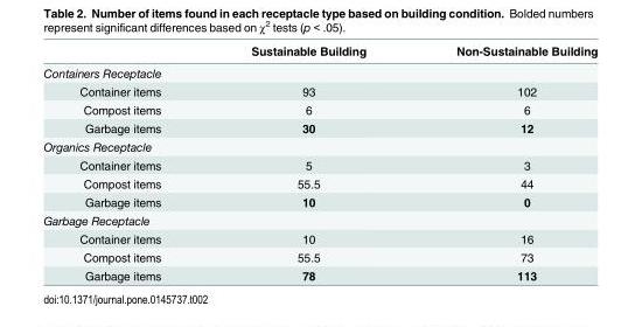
<table><thead><tr><td></td><td>Sustainable Building</td><td>Non-Sustainable Building</td></tr></thead><tbody><tr><td colspan="3">Containers Receptacle</td></tr><tr><td>Container items</td><td>93</td><td>102</td></tr><tr><td>Compost items</td><td>6</td><td>6</td></tr><tr><td>Garbage items</td><td>30</td><td>12</td></tr><tr><td colspan="3">Organics Receptacle</td></tr><tr><td>Container items</td><td>5</td><td>3</td></tr><tr><td>Compost items</td><td>55.5</td><td>44</td></tr><tr><td>Garbage items</td><td>10</td><td>0</td></tr><tr><td colspan="3">Garbage Receptacle</td></tr><tr><td>Container items</td><td>10</td><td>16</td></tr><tr><td>Compost items</td><td>55.5</td><td>73</td></tr><tr><td>Garbage items</td><td>78</td><td>113</td></tr></tbody></table>